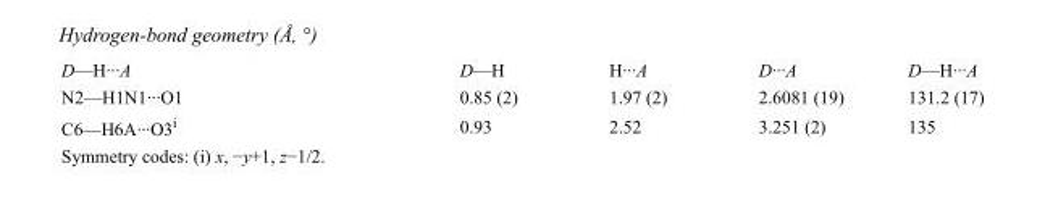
<table><tbody><tr><td>D—H···A</td><td>D—H</td><td>H···A</td><td>D···A</td><td>D—H···A</td></tr><tr><td>N2—H1N1···O1</td><td>0.85 (2)</td><td>1.97 (2)</td><td>2.6081 (19)</td><td>131.2 (17)</td></tr><tr><td>C6—H6A···O3<sup>i</sup></td><td>0.93</td><td>2.52</td><td>3.251 (2)</td><td>135</td></tr></tbody></table>